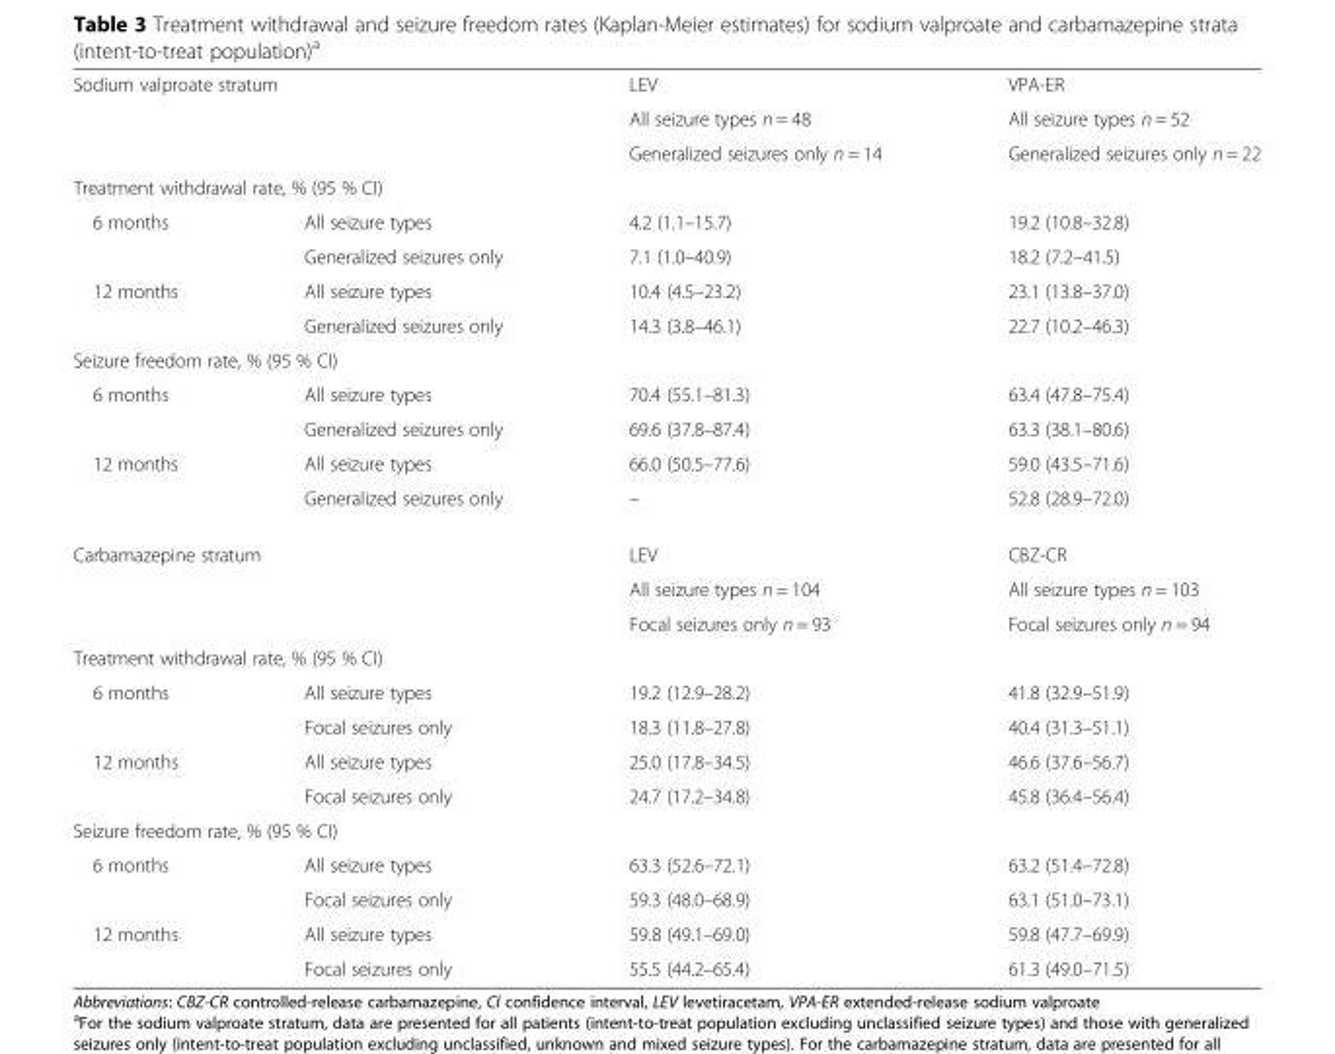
<table><tbody><tr><td rowspan="3" colspan="2">Sodium valproate stratum</td><td>LEV</td><td>VPA-ER</td></tr><tr><td>All seizure types n = 48</td><td>All seizure types n = 52</td></tr><tr><td>Generalized seizures only n = 14</td><td>Generalized seizures only n = 22</td></tr><tr><td colspan="4">Treatment withdrawal rate, % (95 % CI)</td></tr><tr><td rowspan="2">6 months</td><td>All seizure types</td><td>4.2 (1.1–15.7)</td><td>19.2 (10.8–32.8)</td></tr><tr><td>Generalized seizures only</td><td>7.1 (1.0–40.9)</td><td>18.2 (7.2–41.5)</td></tr><tr><td rowspan="2">12 months</td><td>All seizure types</td><td>10.4 (4.5–23.2)</td><td>23.1 (13.8–37.0)</td></tr><tr><td>Generalized seizures only</td><td>14.3 (3.8–46.1)</td><td>22.7 (10.2–46.3)</td></tr><tr><td colspan="4">Seizure freedom rate, % (95 % CI)</td></tr><tr><td rowspan="2">6 months</td><td>All seizure types</td><td>70.4 (55.1–81.3)</td><td>63.4 (47.8–75.4)</td></tr><tr><td>Generalized seizures only</td><td>69.6 (37.8–87.4)</td><td>63.3 (38.1–80.6)</td></tr><tr><td rowspan="2">12 months</td><td>All seizure types</td><td>66.0 (50.5–77.6)</td><td>59.0 (43.5–71.6)</td></tr><tr><td>Generalized seizures only</td><td>–</td><td>52.8 (28.9–72.0)</td></tr><tr><td rowspan="3" colspan="2">Carbamazepine stratum</td><td>LEV</td><td>CBZ-CR</td></tr><tr><td>All seizure types n = 104</td><td>All seizure types n = 103</td></tr><tr><td>Focal seizures only n = 93</td><td>Focal seizures only n = 94</td></tr><tr><td colspan="4">Treatment withdrawal rate, % (95 % CI)</td></tr><tr><td rowspan="2">6 months</td><td>All seizure types</td><td>19.2 (12.9–28.2)</td><td>41.8 (32.9–51.9)</td></tr><tr><td>Focal seizures only</td><td>18.3 (11.8–27.8)</td><td>40.4 (31.3–51.1)</td></tr><tr><td rowspan="2">12 months</td><td>All seizure types</td><td>25.0 (17.8–34.5)</td><td>46.6 (37.6–56.7)</td></tr><tr><td>Focal seizures only</td><td>24.7 (17.2–34.8)</td><td>45.8 (36.4–56.4)</td></tr><tr><td colspan="4">Seizure freedom rate, % (95 % CI)</td></tr><tr><td rowspan="2">6 months</td><td>All seizure types</td><td>63.3 (52.6–72.1)</td><td>63.2 (51.4–72.8)</td></tr><tr><td>Focal seizures only</td><td>59.3 (48.0–68.9)</td><td>63.1 (51.0–73.1)</td></tr><tr><td rowspan="2">12 months</td><td>All seizure types</td><td>59.8 (49.1–69.0)</td><td>59.8 (47.7–69.9)</td></tr><tr><td>Focal seizures only</td><td>55.5 (44.2–65.4)</td><td>61.3 (49.0–71.5)</td></tr></tbody></table>